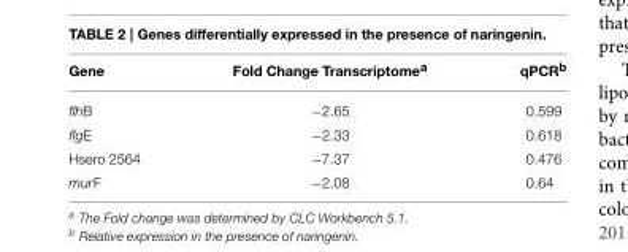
<table><thead><tr><td>Gene</td><td>Fold Change Transcriptome<sup>a</sup></td><td>qPCR<sup>b</sup></td></tr></thead><tbody><tr><td>flhB</td><td>−2.65</td><td>0.599</td></tr><tr><td>flgE</td><td>−2.33</td><td>0.618</td></tr><tr><td>Hsero 2564</td><td>−7.37</td><td>0.476</td></tr><tr><td>murF</td><td>−2.08</td><td>0.64</td></tr></tbody></table>